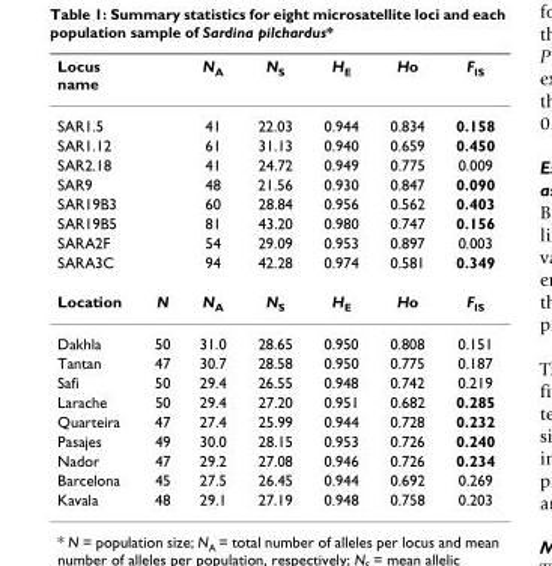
<table><thead><tr><td>Locus name</td><td></td><td>N<sub>A</sub></td><td>N<sub>S</sub></td><td>H<sub>E</sub></td><td>Ho</td><td>F<sub>IS</sub></td></tr></thead><tbody><tr><td>SAR1.5</td><td></td><td>41</td><td>22.03</td><td>0.944</td><td>0.834</td><td>0.158</td></tr><tr><td>SAR1.12</td><td></td><td>61</td><td>31.13</td><td>0.940</td><td>0.659</td><td>0.450</td></tr><tr><td>SAR2.18</td><td></td><td>41</td><td>24.72</td><td>0.949</td><td>0.775</td><td>0.009</td></tr><tr><td>SAR9</td><td></td><td>48</td><td>21.56</td><td>0.930</td><td>0.847</td><td>0.090</td></tr><tr><td>SAR19B3</td><td></td><td>60</td><td>28.84</td><td>0.956</td><td>0.562</td><td>0.403</td></tr><tr><td>SAR19B5</td><td></td><td>81</td><td>43.20</td><td>0.980</td><td>0.747</td><td>0.156</td></tr><tr><td>SARA2F</td><td></td><td>54</td><td>29.09</td><td>0.953</td><td>0.897</td><td>0.003</td></tr><tr><td>SARA3C</td><td></td><td>94</td><td>42.28</td><td>0.974</td><td>0.581</td><td>0.349</td></tr><tr><td>Location</td><td>N</td><td>N<sub>A</sub></td><td>N<sub>S</sub></td><td>H<sub>E</sub></td><td>Ho</td><td>F<sub>IS</sub></td></tr><tr><td>Dakhla</td><td>50</td><td>31.0</td><td>28.65</td><td>0.950</td><td>0.808</td><td>0.151</td></tr><tr><td>Tantan</td><td>47</td><td>30.7</td><td>28.58</td><td>0.950</td><td>0.775</td><td>0.187</td></tr><tr><td>Safi</td><td>50</td><td>29.4</td><td>26.55</td><td>0.948</td><td>0.742</td><td>0.219</td></tr><tr><td>Larache</td><td>50</td><td>29.4</td><td>27.20</td><td>0.951</td><td>0.682</td><td>0.285</td></tr><tr><td>Quarteira</td><td>47</td><td>27.4</td><td>25.99</td><td>0.944</td><td>0.728</td><td>0.232</td></tr><tr><td>Pasajes</td><td>49</td><td>30.0</td><td>28.15</td><td>0.953</td><td>0.726</td><td>0.240</td></tr><tr><td>Nador</td><td>47</td><td>29.2</td><td>27.08</td><td>0.946</td><td>0.726</td><td>0.234</td></tr><tr><td>Barcelona</td><td>45</td><td>27.5</td><td>26.45</td><td>0.944</td><td>0.692</td><td>0.269</td></tr><tr><td>Kavala</td><td>48</td><td>29.1</td><td>27.19</td><td>0.948</td><td>0.758</td><td>0.203</td></tr></tbody></table>